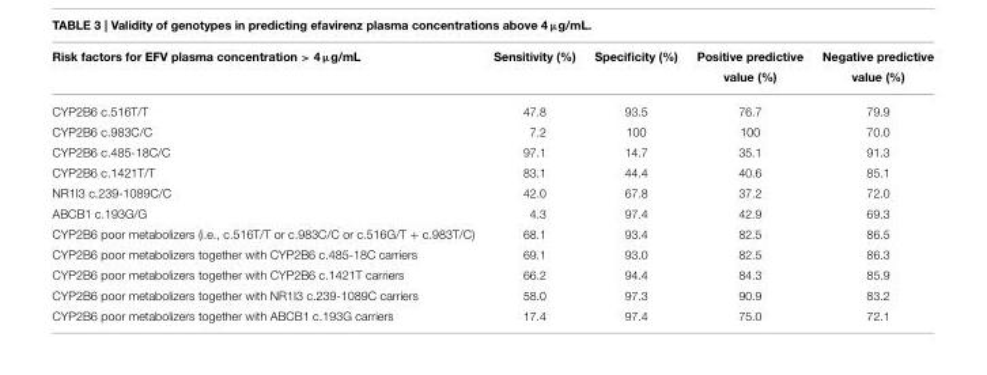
<table><thead><tr><td>Risk factors for EFV plasma concentration &gt; 4 µg/mL</td><td>Sensitivity (%)</td><td>Specificity (%)</td><td>Positive predictive value (%)</td><td>Negative predictive value (%)</td></tr></thead><tbody><tr><td>CYP2B6 c.516T/T</td><td>47.8</td><td>93.5</td><td>76.7</td><td>79.9</td></tr><tr><td>CYP2B6 c.983C/C</td><td>7.2</td><td>100</td><td>100</td><td>70.0</td></tr><tr><td>CYP2B6 c.485-18C/C</td><td>97.1</td><td>14.7</td><td>35.1</td><td>91.3</td></tr><tr><td>CYP2B6 c.1421T/T</td><td>83.1</td><td>44.4</td><td>40.6</td><td>85.1</td></tr><tr><td>NR1I3 c.239-1089C/C</td><td>42.0</td><td>67.8</td><td>37.2</td><td>72.0</td></tr><tr><td>ABCB1 c.193G/G</td><td>4.3</td><td>97.4</td><td>42.9</td><td>69.3</td></tr><tr><td>CYP2B6 poor metabolizers (i.e., c.516T/T or c.983C/C or c.516G/T + c.983T/C)</td><td>68.1</td><td>93.4</td><td>82.5</td><td>86.5</td></tr><tr><td>CYP2B6 poor metabolizers together with CYP2B6 c.485-18C carriers</td><td>69.1</td><td>93.0</td><td>82.5</td><td>86.3</td></tr><tr><td>CYP2B6 poor metabolizers together with CYP2B6 c.1421T carriers</td><td>66.2</td><td>94.4</td><td>84.3</td><td>85.9</td></tr><tr><td>CYP2B6 poor metabolizers together with NR1I3 c.239-1089C carriers</td><td>58.0</td><td>97.3</td><td>90.9</td><td>83.2</td></tr><tr><td>CYP2B6 poor metabolizers together with ABCB1 c.193G carriers</td><td>17.4</td><td>97.4</td><td>75.0</td><td>72.1</td></tr></tbody></table>